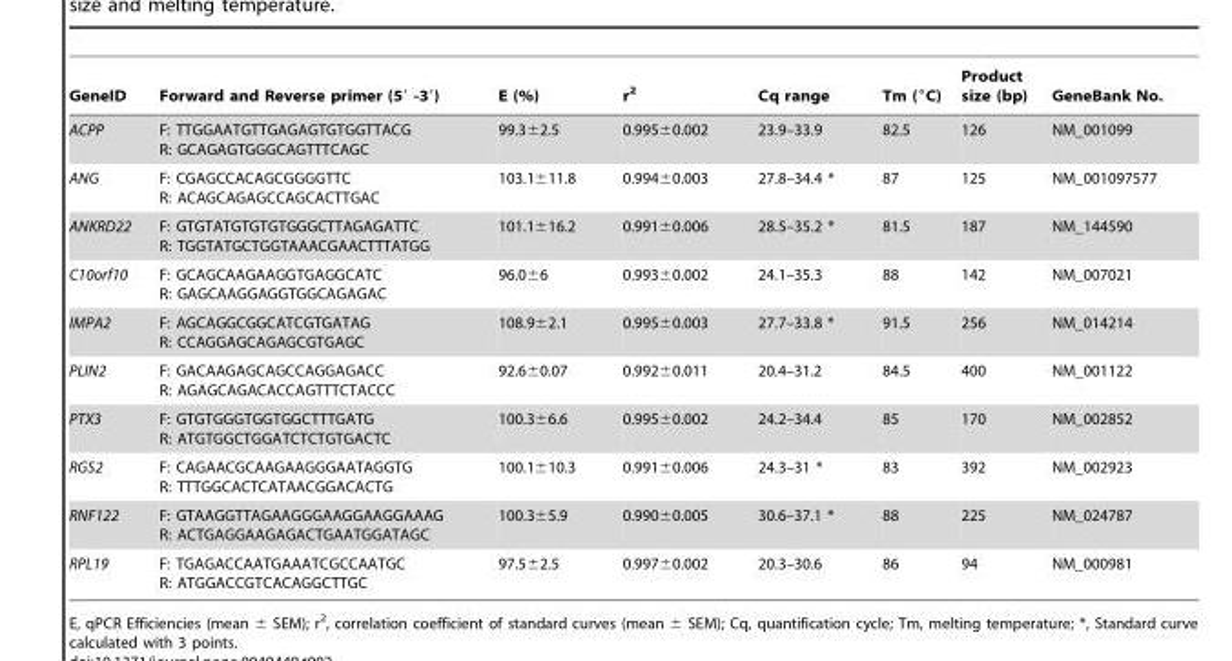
<table><thead><tr><td>GeneID</td><td>Forward and Reverse primer (5′ -3′)</td><td>E (%)</td><td>r<sup>2</sup></td><td>Cq range</td><td>Tm (°C)</td><td>Product size (bp)</td><td>GeneBank No.</td></tr></thead><tbody><tr><td>ACPP</td><td>F: TTGGAATGTTGAGAGTGTGGTTACG R: GCAGAGTGGGCAGTTTCAGC</td><td>99.3±2.5</td><td>0.995±0.002</td><td>23.9–33.9</td><td>82.5</td><td>126</td><td>NM_001099</td></tr><tr><td>ANG</td><td>F: CGAGCCACAGCGGGGTTC R: ACAGCAGAGCCAGCACTTGAC</td><td>103.1±11.8</td><td>0.994±0.003</td><td>27.8–34.4 *</td><td>87</td><td>125</td><td>NM_001097577</td></tr><tr><td>ANKRD22</td><td>F: GTGTATGTGTGTGGGCTTAGAGATTC R: TGGTATGCTGGTAAACGAACTTTATGG</td><td>101.1±16.2</td><td>0.991±0.006</td><td>28.5–35.2 *</td><td>81.5</td><td>187</td><td>NM_144590</td></tr><tr><td>C10orf10</td><td>F: GCAGCAAGAAGGTGAGGCATC R: GAGCAAGGAGGTGGCAGAGAC</td><td>96.0±6</td><td>0.993±0.002</td><td>24.1–35.3</td><td>88</td><td>142</td><td>NM_007021</td></tr><tr><td>IMPA2</td><td>F: AGCAGGCGGCATCGTGATAG R: CCAGGAGCAGAGCGTGAGC</td><td>108.9±2.1</td><td>0.995±0.003</td><td>27.7–33.8 *</td><td>91.5</td><td>256</td><td>NM_014214</td></tr><tr><td>PLIN2</td><td>F: GACAAGAGCAGCCAGGAGACC R: AGAGCAGACACCAGTTTCTACCC</td><td>92.6±0.07</td><td>0.992±0.011</td><td>20.4–31.2</td><td>84.5</td><td>400</td><td>NM_001122</td></tr><tr><td>PTX3</td><td>F: GTGTGGGTGGTGGCTTTGATG R: ATGTGGCTGGATCTCTGTGACTC</td><td>100.3±6.6</td><td>0.995±0.002</td><td>24.2–34.4</td><td>85</td><td>170</td><td>NM_002852</td></tr><tr><td>RGS2</td><td>F: CAGAACGCAAGAAGGGAATAGGTG R: TTTGGCACTCATAACGGACACTG</td><td>100.1±10.3</td><td>0.991±0.006</td><td>24.3–31 *</td><td>83</td><td>392</td><td>NM_002923</td></tr><tr><td>RNF122</td><td>F: GTAAGGTTAGAAGGGAAGGAAGGAAAG R: ACTGAGGAAGAGACTGAATGGATAGC</td><td>100.3±5.9</td><td>0.990±0.005</td><td>30.6–37.1 *</td><td>88</td><td>225</td><td>NM_024787</td></tr><tr><td>RPL19</td><td>F: TGAGACCAATGAAATCGCCAATGC R: ATGGACCGTCACAGGCTTGC</td><td>97.5±2.5</td><td>0.997±0.002</td><td>20.3–30.6</td><td>86</td><td>94</td><td>NM_000981</td></tr></tbody></table>